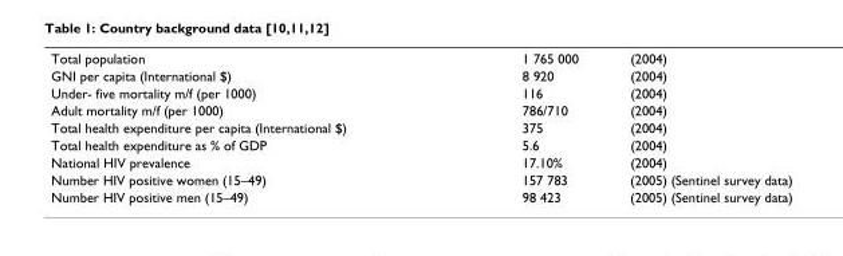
<table><tbody><tr><td>Total population</td><td>1 765 000</td><td>(2004)</td></tr><tr><td>GNI per capita (International $)</td><td>8 920</td><td>(2004)</td></tr><tr><td>Under- five mortality m/f (per 1000)</td><td>116</td><td>(2004)</td></tr><tr><td>Adult mortality m/f (per 1000)</td><td>786/710</td><td>(2004)</td></tr><tr><td>Total health expenditure per capita (International $)</td><td>375</td><td>(2004)</td></tr><tr><td>Total health expenditure as % of GDP</td><td>5.6</td><td>(2004)</td></tr><tr><td>National HIV prevalence</td><td>17.10%</td><td>(2004)</td></tr><tr><td>Number HIV positive women (15–49)</td><td>157 783</td><td>(2005) (Sentinel survey data)</td></tr><tr><td>Number HIV positive men (15–49)</td><td>98 423</td><td>(2005) (Sentinel survey data)</td></tr></tbody></table>